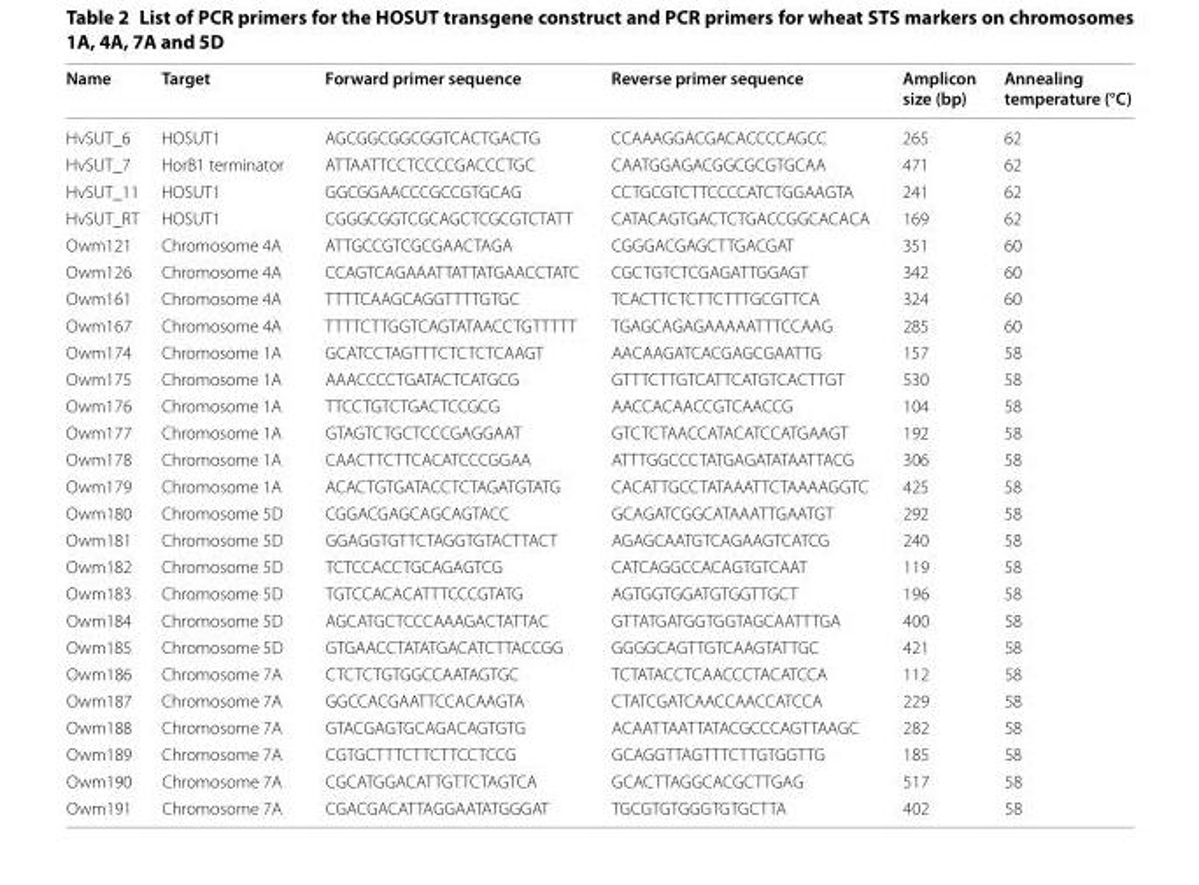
<table><thead><tr><td>Name</td><td>Target</td><td>Forward primer sequence</td><td>Reverse primer sequence</td><td>Amplicon size (bp)</td><td>Annealing temperature (°C)</td></tr></thead><tbody><tr><td>HvSUT_6</td><td>HOSUT1</td><td>AGCGGCGGCGGTCACTGACTG</td><td>CCAAAGGACGACACCCCAGCC</td><td>265</td><td>62</td></tr><tr><td>HvSUT_7</td><td>HorB1 terminator</td><td>ATTAATTCCTCCCCGACCCTGC</td><td>CAATGGAGACGGCGCGTGCAA</td><td>471</td><td>62</td></tr><tr><td>HvSUT_11</td><td>HOSUT1</td><td>GGCGGAACCCGCCGTGCAG</td><td>CCTGCGTCTTCCCCATCTGGAAGTA</td><td>241</td><td>62</td></tr><tr><td>HvSUT_RT</td><td>HOSUT1</td><td>CGGGCGGTCGCAGCTCGCGTCTATT</td><td>CATACAGTGACTCTGACCGGCACACA</td><td>169</td><td>62</td></tr><tr><td>Owm121</td><td>Chromosome 4A</td><td>ATTGCCGTCGCGAACTAGA</td><td>CGGGACGAGCTTGACGAT</td><td>351</td><td>60</td></tr><tr><td>Owm126</td><td>Chromosome 4A</td><td>CCAGTCAGAAATTATTATGAACCTATC</td><td>CGCTGTCTCGAGATTGGAGT</td><td>342</td><td>60</td></tr><tr><td>Owm161</td><td>Chromosome 4A</td><td>TTTTCAAGCAGGTTTTGTGC</td><td>TCACTTCTCTTCTTTGCGTTCA</td><td>324</td><td>60</td></tr><tr><td>Owm167</td><td>Chromosome 4A</td><td>TTTTCTTGGTCAGTATAACCTGTTTTT</td><td>TGAGCAGAGAAAAATTTCCAAG</td><td>285</td><td>60</td></tr><tr><td>Owm174</td><td>Chromosome 1A</td><td>GCATCCTAGTTTCTCTCTCAAGT</td><td>AACAAGATCACGAGCGAATTG</td><td>157</td><td>58</td></tr><tr><td>Owm175</td><td>Chromosome 1A</td><td>AAACCCCTGATACTCATGCG</td><td>GTTTCTTGTCATTCATGTCACTTGT</td><td>530</td><td>58</td></tr><tr><td>Owm176</td><td>Chromosome 1A</td><td>TTCCTGTCTGACTCCGCG</td><td>AACCACAACCGTCAACCG</td><td>104</td><td>58</td></tr><tr><td>Owm177</td><td>Chromosome 1A</td><td>GTAGTCTGCTCCCGAGGAAT</td><td>GTCTCTAACCATACATCCATGAAGT</td><td>192</td><td>58</td></tr><tr><td>Owm178</td><td>Chromosome 1A</td><td>CAACTTCTTCACATCCCGGAA</td><td>ATTTGGCCCTATGAGATATAATTACG</td><td>306</td><td>58</td></tr><tr><td>Owm179</td><td>Chromosome 1A</td><td>ACACTGTGATACCTCTAGATGTATG</td><td>CACATTGCCTATAAATTCTAAAAGGTC</td><td>425</td><td>58</td></tr><tr><td>Owm180</td><td>Chromosome 5D</td><td>CGGACGAGCAGCAGTACC</td><td>GCAGATCGGCATAAATTGAATGT</td><td>292</td><td>58</td></tr><tr><td>Owm181</td><td>Chromosome 5D</td><td>GGAGGTGTTCTAGGTGTACTTACT</td><td>AGAGCAATGTCAGAAGTCATCG</td><td>240</td><td>58</td></tr><tr><td>Owm182</td><td>Chromosome 5D</td><td>TCTCCACCTGCAGAGTCG</td><td>CATCAGGCCACAGTGTCAAT</td><td>119</td><td>58</td></tr><tr><td>Owm183</td><td>Chromosome 5D</td><td>TGTCCACACATTTCCCGTATG</td><td>AGTGGTGGATGTGGTTGCT</td><td>196</td><td>58</td></tr><tr><td>Owm184</td><td>Chromosome 5D</td><td>AGCATGCTCCCAAAGACTATTAC</td><td>GTTATGATGGTGGTAGCAATTTGA</td><td>400</td><td>58</td></tr><tr><td>Owm185</td><td>Chromosome 5D</td><td>GTGAACCTATATGACATCTTACCGG</td><td>GGGGCAGTTGTCAAGTATTGC</td><td>421</td><td>58</td></tr><tr><td>Owm186</td><td>Chromosome 7A</td><td>CTCTCTGTGGCCAATAGTGC</td><td>TCTATACCTCAACCCTACATCCA</td><td>112</td><td>58</td></tr><tr><td>Owm187</td><td>Chromosome 7A</td><td>GGCCACGAATTCCACAAGTA</td><td>CTATCGATCAACCAACCATCCA</td><td>229</td><td>58</td></tr><tr><td>Owm188</td><td>Chromosome 7A</td><td>GTACGAGTGCAGACAGTGTG</td><td>ACAATTAATTATACGCCCAGTTAAGC</td><td>282</td><td>58</td></tr><tr><td>Owm189</td><td>Chromosome 7A</td><td>CGTGCTTTCTTCTTCCTCCG</td><td>GCAGGTTAGTTTCTTGTGGTTG</td><td>185</td><td>58</td></tr><tr><td>Owm190</td><td>Chromosome 7A</td><td>CGCATGGACATTGTTCTAGTCA</td><td>GCACTTAGGCACGCTTGAG</td><td>517</td><td>58</td></tr><tr><td>Owm191</td><td>Chromosome 7A</td><td>CGACGACATTAGGAATATGGGAT</td><td>TGCGTGTGGGTGTGCTTA</td><td>402</td><td>58</td></tr></tbody></table>